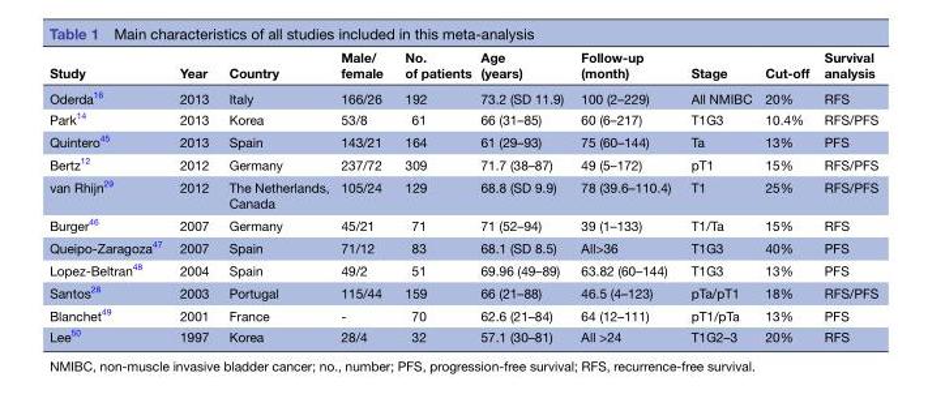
<table><thead><tr><td>Study</td><td>Year</td><td>Country</td><td>Male/ female</td><td>No. of patients</td><td>Age (years)</td><td>Follow-up (month)</td><td>Stage</td><td>Cut-off</td><td>Survival analysis</td></tr></thead><tbody><tr><td>Oderda<sup>16</sup></td><td>2013</td><td>Italy</td><td>166/26</td><td>192</td><td>73.2 (SD 11.9)</td><td>100 (2–229)</td><td>All NMIBC</td><td>20%</td><td>RFS</td></tr><tr><td>Park<sup>14</sup></td><td>2013</td><td>Korea</td><td>53/8</td><td>61</td><td>66 (31–85)</td><td>60 (6–217)</td><td>T1G3</td><td>10.4%</td><td>RFS/PFS</td></tr><tr><td>Quintero<sup>45</sup></td><td>2013</td><td>Spain</td><td>143/21</td><td>164</td><td>61 (29–93)</td><td>75 (60–144)</td><td>Ta</td><td>13%</td><td>PFS</td></tr><tr><td>Bertz<sup>12</sup></td><td>2012</td><td>Germany</td><td>237/72</td><td>309</td><td>71.7 (38–87)</td><td>49 (5–172)</td><td>pT1</td><td>15%</td><td>RFS/PFS</td></tr><tr><td>van Rhijn<sup>29</sup></td><td>2012</td><td>The Netherlands, Canada</td><td>105/24</td><td>129</td><td>68.8 (SD 9.9)</td><td>78 (39.6–110.4)</td><td>T1</td><td>25%</td><td>RFS/PFS</td></tr><tr><td>Burger<sup>46</sup></td><td>2007</td><td>Germany</td><td>45/21</td><td>71</td><td>71 (52–94)</td><td>39 (1–133)</td><td>T1/Ta</td><td>15%</td><td>RFS</td></tr><tr><td>Queipo-Zaragoza<sup>47</sup></td><td>2007</td><td>Spain</td><td>71/12</td><td>83</td><td>68.1 (SD 8.5)</td><td>All&gt;36</td><td>T1G3</td><td>40%</td><td>PFS</td></tr><tr><td>Lopez-Beltran<sup>48</sup></td><td>2004</td><td>Spain</td><td>49/2</td><td>51</td><td>69.96 (49–89)</td><td>63.82 (60–144)</td><td>T1G3</td><td>13%</td><td>PFS</td></tr><tr><td>Santos<sup>28</sup></td><td>2003</td><td>Portugal</td><td>115/44</td><td>159</td><td>66 (21–88)</td><td>46.5 (4–123)</td><td>pTa/pT1</td><td>18%</td><td>RFS/PFS</td></tr><tr><td>Blanchet<sup>49</sup></td><td>2001</td><td>France</td><td>-</td><td>70</td><td>62.6 (21–84)</td><td>64 (12–111)</td><td>pT1/pTa</td><td>13%</td><td>PFS</td></tr><tr><td>Lee<sup>50</sup></td><td>1997</td><td>Korea</td><td>28/4</td><td>32</td><td>57.1 (30–81)</td><td>All &gt;24</td><td>T1G2–3</td><td>20%</td><td>RFS</td></tr></tbody></table>